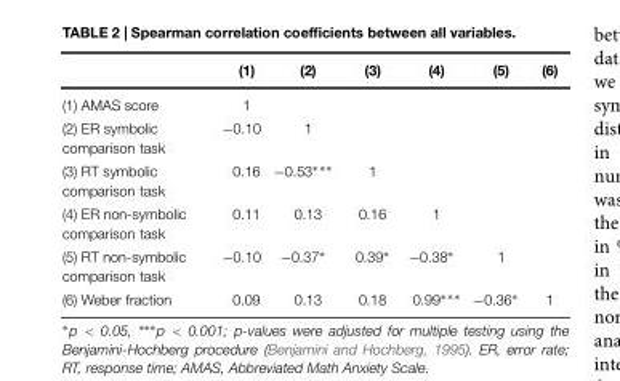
<table><thead><tr><td></td><td>(1)</td><td>(2)</td><td>(3)</td><td>(4)</td><td>(5)</td><td>(6)</td></tr></thead><tbody><tr><td>(1) AMAS score</td><td>1</td><td></td><td></td><td></td><td></td><td></td></tr><tr><td>(2) ER symbolic comparison task</td><td>−0.10</td><td>1</td><td></td><td></td><td></td><td></td></tr><tr><td>(3) RT symbolic comparison task</td><td>0.16</td><td>−0.53∗∗∗</td><td>1</td><td></td><td></td><td></td></tr><tr><td>(4) ER non-symbolic comparison task</td><td>0.11</td><td>0.13</td><td>0.16</td><td>1</td><td></td><td></td></tr><tr><td>(5) RT non-symbolic comparison task</td><td>−0.10</td><td>−0.37∗</td><td>0.39∗</td><td>−0.38∗</td><td>1</td><td></td></tr><tr><td>(6) Weber fraction</td><td>0.09</td><td>0.13</td><td>0.18</td><td>0.99∗∗∗</td><td>−0.36∗</td><td>1</td></tr></tbody></table>